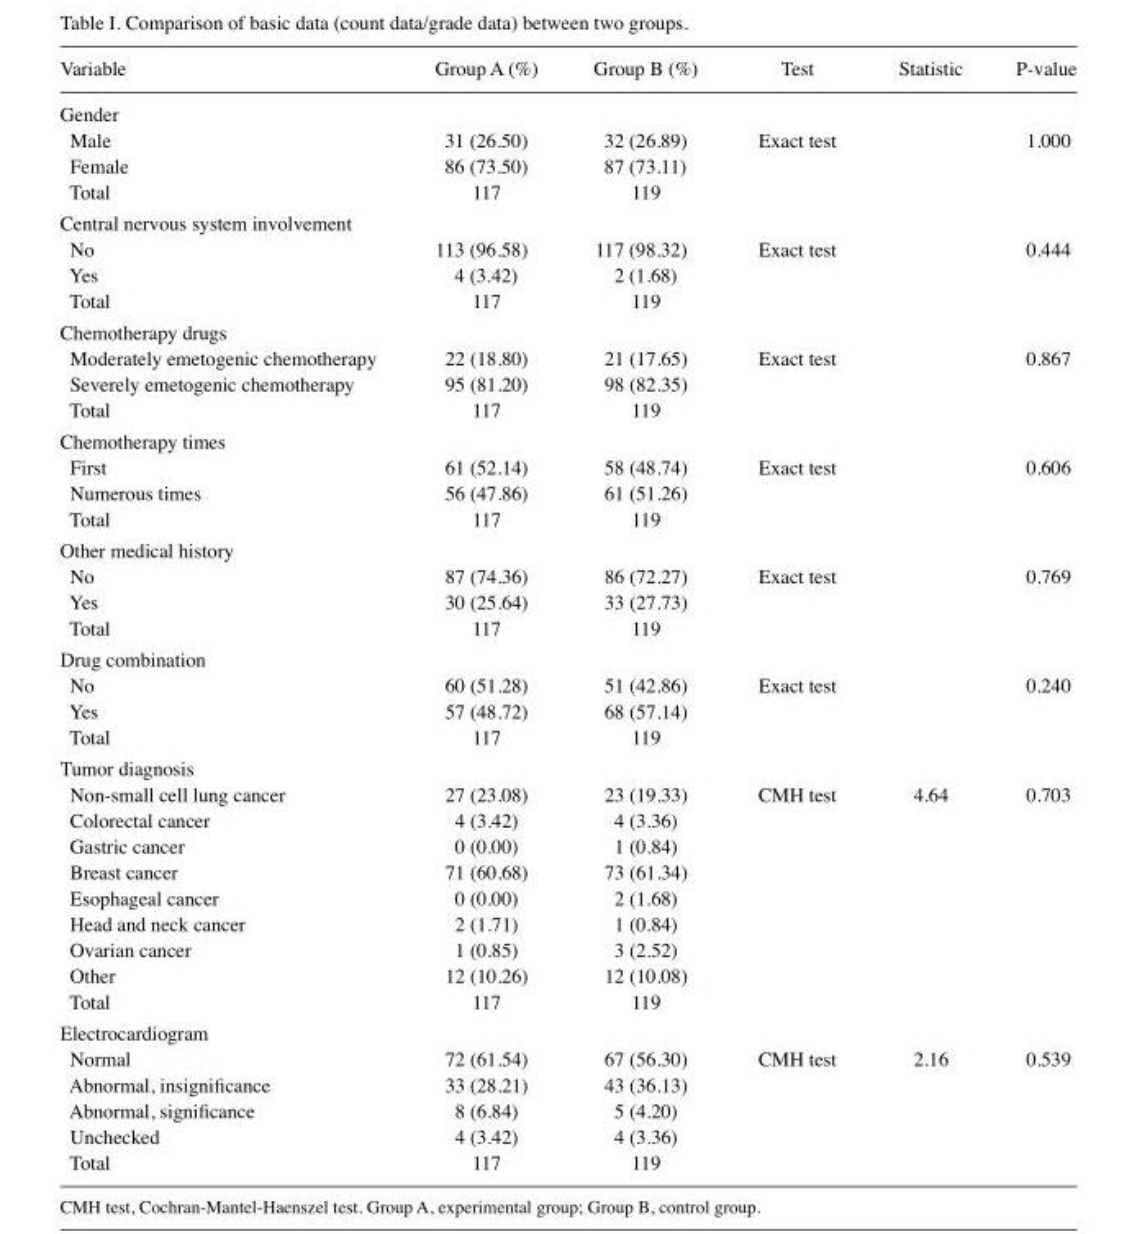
<table><thead><tr><td>Variable</td><td>Group A (%)</td><td>Group B (%)</td><td>Test</td><td>Statistic</td><td>P-value</td></tr></thead><tbody><tr><td colspan="6">Gender</td></tr><tr><td>Male</td><td>31 (26.50)</td><td>32 (26.89)</td><td>Exact test</td><td></td><td>1.000</td></tr><tr><td>Female</td><td>86 (73.50)</td><td>87 (73.11)</td><td></td><td></td><td></td></tr><tr><td>Total</td><td>117</td><td>119</td><td></td><td></td><td></td></tr><tr><td colspan="6">Central nervous system involvement</td></tr><tr><td>No</td><td>113 (96.58)</td><td>117 (98.32)</td><td>Exact test</td><td></td><td>0.444</td></tr><tr><td>Yes</td><td>4 (3.42)</td><td>2 (1.68)</td><td></td><td></td><td></td></tr><tr><td>Total</td><td>117</td><td>119</td><td></td><td></td><td></td></tr><tr><td colspan="6">Chemotherapy drugs</td></tr><tr><td>Moderately emetogenic chemotherapy</td><td>22 (18.80)</td><td>21 (17.65)</td><td>Exact test</td><td></td><td>0.867</td></tr><tr><td>Severely emetogenic chemotherapy</td><td>95 (81.20)</td><td>98 (82.35)</td><td></td><td></td><td></td></tr><tr><td>Total</td><td>117</td><td>119</td><td></td><td></td><td></td></tr><tr><td colspan="6">Chemotherapy times</td></tr><tr><td>First</td><td>61 (52.14)</td><td>58 (48.74)</td><td>Exact test</td><td></td><td>0.606</td></tr><tr><td>Numerous times</td><td>56 (47.86)</td><td>61 (51.26)</td><td></td><td></td><td></td></tr><tr><td>Total</td><td>117</td><td>119</td><td></td><td></td><td></td></tr><tr><td colspan="6">Other medical history</td></tr><tr><td>No</td><td>87 (74.36)</td><td>86 (72.27)</td><td>Exact test</td><td></td><td>0.769</td></tr><tr><td>Yes</td><td>30 (25.64)</td><td>33 (27.73)</td><td></td><td></td><td></td></tr><tr><td>Total</td><td>117</td><td>119</td><td></td><td></td><td></td></tr><tr><td colspan="6">Drug combination</td></tr><tr><td>No</td><td>60 (51.28)</td><td>51 (42.86)</td><td>Exact test</td><td></td><td>0.240</td></tr><tr><td>Yes</td><td>57 (48.72)</td><td>68 (57.14)</td><td></td><td></td><td></td></tr><tr><td>Total</td><td>117</td><td>119</td><td></td><td></td><td></td></tr><tr><td colspan="6">Tumor diagnosis</td></tr><tr><td>Non-small cell lung cancer</td><td>27 (23.08)</td><td>23 (19.33)</td><td>CMH test</td><td>4.64</td><td>0.703</td></tr><tr><td>Colorectal cancer</td><td>4 (3.42)</td><td>4 (3.36)</td><td></td><td></td><td></td></tr><tr><td>Gastric cancer</td><td>0 (0.00)</td><td>1 (0.84)</td><td></td><td></td><td></td></tr><tr><td>Breast cancer</td><td>71 (60.68)</td><td>73 (61.34)</td><td></td><td></td><td></td></tr><tr><td>Esophageal cancer</td><td>0 (0.00)</td><td>2 (1.68)</td><td></td><td></td><td></td></tr><tr><td>Head and neck cancer</td><td>2 (1.71)</td><td>1 (0.84)</td><td></td><td></td><td></td></tr><tr><td>Ovarian cancer</td><td>1 (0.85)</td><td>3 (2.52)</td><td></td><td></td><td></td></tr><tr><td>Other</td><td>12 (10.26)</td><td>12 (10.08)</td><td></td><td></td><td></td></tr><tr><td>Total</td><td>117</td><td>119</td><td></td><td></td><td></td></tr><tr><td colspan="6">Electrocardiogram</td></tr><tr><td>Normal</td><td>72 (61.54)</td><td>67 (56.30)</td><td>CMH test</td><td>2.16</td><td>0.539</td></tr><tr><td>Abnormal, insignificance</td><td>33 (28.21)</td><td>43 (36.13)</td><td></td><td></td><td></td></tr><tr><td>Abnormal, significance</td><td>8 (6.84)</td><td>5 (4.20)</td><td></td><td></td><td></td></tr><tr><td>Unchecked</td><td>4 (3.42)</td><td>4 (3.36)</td><td></td><td></td><td></td></tr><tr><td>Total</td><td>117</td><td>119</td><td></td><td></td><td></td></tr></tbody></table>